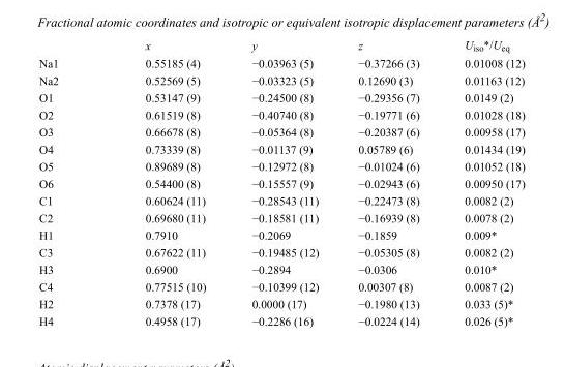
<table><thead><tr><td></td><td>x</td><td>y</td><td>z</td><td>U<sub>iso</sub>*/U<sub>eq</sub></td></tr></thead><tbody><tr><td>Na1</td><td>0.55185 (4)</td><td>−0.03963 (5)</td><td>−0.37266 (3)</td><td>0.01008 (12)</td></tr><tr><td>Na2</td><td>0.52569 (5)</td><td>−0.03323 (5)</td><td>0.12690 (3)</td><td>0.01163 (12)</td></tr><tr><td>O1</td><td>0.53147 (9)</td><td>−0.24500 (8)</td><td>−0.29356 (7)</td><td>0.0149 (2)</td></tr><tr><td>O2</td><td>0.61519 (8)</td><td>−0.40740 (8)</td><td>−0.19771 (6)</td><td>0.01028 (18)</td></tr><tr><td>O3</td><td>0.66678 (8)</td><td>−0.05364 (8)</td><td>−0.20387 (6)</td><td>0.00958 (17)</td></tr><tr><td>O4</td><td>0.73339 (8)</td><td>−0.01137 (9)</td><td>0.05789 (6)</td><td>0.01434 (19)</td></tr><tr><td>O5</td><td>0.89689 (8)</td><td>−0.12972 (8)</td><td>−0.01024 (6)</td><td>0.01052 (18)</td></tr><tr><td>O6</td><td>0.54400 (8)</td><td>−0.15557 (9)</td><td>−0.02943 (6)</td><td>0.00950 (17)</td></tr><tr><td>C1</td><td>0.60624 (11)</td><td>−0.28543 (11)</td><td>−0.22473 (8)</td><td>0.0082 (2)</td></tr><tr><td>C2</td><td>0.69680 (11)</td><td>−0.18581 (11)</td><td>−0.16939 (8)</td><td>0.0078 (2)</td></tr><tr><td>H1</td><td>0.7910</td><td>−0.2069</td><td>−0.1859</td><td>0.009*</td></tr><tr><td>C3</td><td>0.67622 (11)</td><td>−0.19485 (12)</td><td>−0.05305 (8)</td><td>0.0082 (2)</td></tr><tr><td>H3</td><td>0.6900</td><td>−0.2894</td><td>−0.0306</td><td>0.010*</td></tr><tr><td>C4</td><td>0.77515 (10)</td><td>−0.10399 (12)</td><td>0.00307 (8)</td><td>0.0087 (2)</td></tr><tr><td>H2</td><td>0.7378 (17)</td><td>0.0000 (17)</td><td>−0.1980 (13)</td><td>0.033 (5)*</td></tr><tr><td>H4</td><td>0.4958 (17)</td><td>−0.2286 (16)</td><td>−0.0224 (14)</td><td>0.026 (5)*</td></tr></tbody></table>